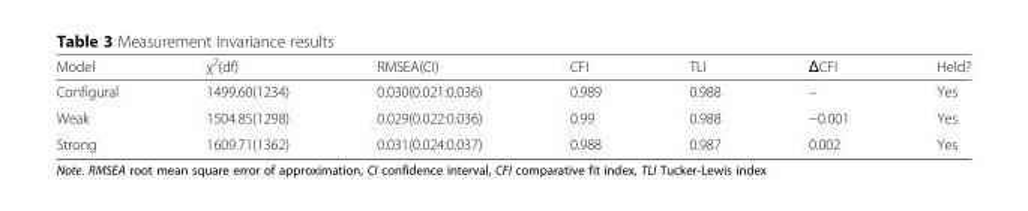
<table><thead><tr><td>Model</td><td>χ<sup>2</sup>(df)</td><td>RMSEA(CI)</td><td>CFI</td><td>TLI</td><td>ΔCFI</td><td>Held?</td></tr></thead><tbody><tr><td>Configural</td><td>1499.60(1234)</td><td>0.030(0.021:0.036)</td><td>0.989</td><td>0.988</td><td>–</td><td>Yes</td></tr><tr><td>Weak</td><td>1504.85(1298)</td><td>0.029(0.022:0.036)</td><td>0.99</td><td>0.988</td><td>−0.001</td><td>Yes</td></tr><tr><td>Strong</td><td>1609.71(1362)</td><td>0.031(0.024:0.037)</td><td>0.988</td><td>0.987</td><td>0.002</td><td>Yes</td></tr></tbody></table>